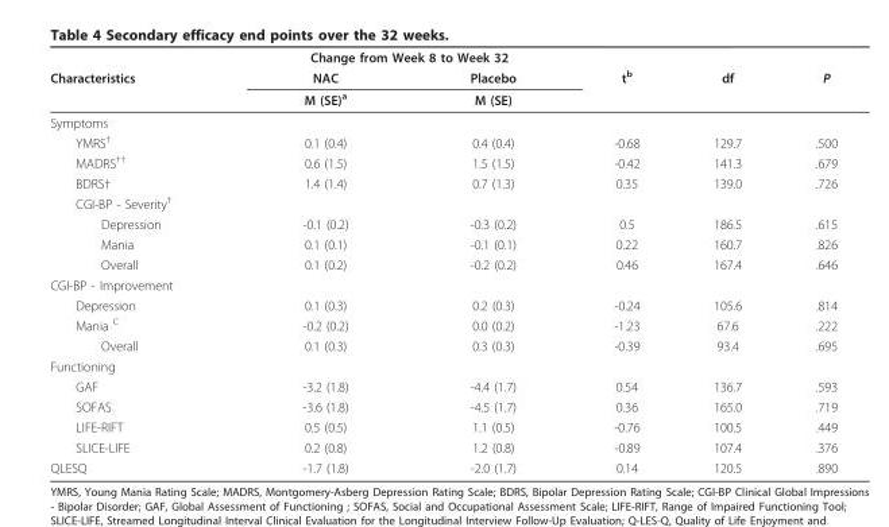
<table><thead><tr><td rowspan="3">Characteristics</td><td colspan="2">Change from Week 8 to Week 32</td><td rowspan="3">t<sup>b</sup></td><td rowspan="3">df</td><td rowspan="3">P</td></tr><tr><td rowspan="2">NAC M (SE)<sup>a</sup></td><td rowspan="2">Placebo M (SE)</td></tr><tr></tr></thead><tbody><tr><td colspan="6">Symptoms</td></tr><tr><td>YMRS<sup>†</sup></td><td>0.1 (0.4)</td><td>0.4 (0.4)</td><td>-0.68</td><td>129.7</td><td>.500</td></tr><tr><td>MADRS<sup>††</sup></td><td>0.6 (1.5)</td><td>1.5 (1.5)</td><td>-0.42</td><td>141.3</td><td>.679</td></tr><tr><td>BDRS†</td><td>1.4 (1.4)</td><td>0.7 (1.3)</td><td>0.35</td><td>139.0</td><td>.726</td></tr><tr><td colspan="6">CGI-BP - Severity<sup>†</sup></td></tr><tr><td>Depression</td><td>-0.1 (0.2)</td><td>-0.3 (0.2)</td><td>0.5</td><td>186.5</td><td>.615</td></tr><tr><td>Mania</td><td>0.1 (0.1)</td><td>-0.1 (0.1)</td><td>0.22</td><td>160.7</td><td>.826</td></tr><tr><td>Overall</td><td>0.1 (0.2)</td><td>-0.2 (0.2)</td><td>0.46</td><td>167.4</td><td>.646</td></tr><tr><td colspan="6">CGI-BP - Improvement</td></tr><tr><td>Depression</td><td>0.1 (0.3)</td><td>0.2 (0.3)</td><td>-0.24</td><td>105.6</td><td>.814</td></tr><tr><td>Mania <sup>C</sup></td><td>-0.2 (0.2)</td><td>0.0 (0.2)</td><td>-1.23</td><td>67.6</td><td>.222</td></tr><tr><td>Overall</td><td>0.1 (0.3)</td><td>0.3 (0.3)</td><td>-0.39</td><td>93.4</td><td>.695</td></tr><tr><td colspan="6">Functioning</td></tr><tr><td>GAF</td><td>-3.2 (1.8)</td><td>-4.4 (1.7)</td><td>0.54</td><td>136.7</td><td>.593</td></tr><tr><td>SOFAS</td><td>-3.6 (1.8)</td><td>-4.5 (1.7)</td><td>0.36</td><td>165.0</td><td>.719</td></tr><tr><td>LIFE-RIFT</td><td>0.5 (0.5)</td><td>1.1 (0.5)</td><td>-0.76</td><td>100.5</td><td>.449</td></tr><tr><td>SLICE-LIFE</td><td>0.2 (0.8)</td><td>1.2 (0.8)</td><td>-0.89</td><td>107.4</td><td>.376</td></tr><tr><td>QLESQ</td><td>-1.7 (1.8)</td><td>-2.0 (1.7)</td><td>0.14</td><td>120.5</td><td>.890</td></tr></tbody></table>